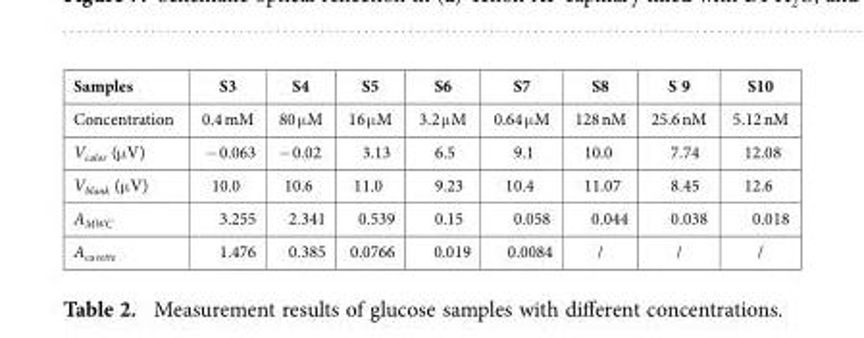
<table><tbody><tr><td>Samples</td><td>S3</td><td>S4</td><td>S5</td><td>S6</td><td>S7</td><td>S8</td><td>S 9</td><td>S10</td></tr><tr><td>Concentration</td><td>0.4 mM</td><td>80 μ M</td><td>16 μ M</td><td>3.2 μ M</td><td>0.64 μ M</td><td>128 nM</td><td>25.6 nM</td><td>5.12 nM</td></tr><tr><td>Vcolor (μ V)</td><td>− 0.063</td><td>− 0.02</td><td>3.13</td><td>6.5</td><td>9.1</td><td>10.0</td><td>7.74</td><td>12.08</td></tr><tr><td>Vblank (μ V)</td><td>10.0</td><td>10.6</td><td>11.0</td><td>9.23</td><td>10.4</td><td>11.07</td><td>8.45</td><td>12.6</td></tr><tr><td>AMWC</td><td>3.255</td><td>2.341</td><td>0.539</td><td>0.15</td><td>0.058</td><td>0.044</td><td>0.038</td><td>0.018</td></tr><tr><td>Acuvette</td><td>1.476</td><td>0.385</td><td>0.0766</td><td>0.019</td><td>0.0084</td><td>/</td><td>/</td><td>/</td></tr></tbody></table>